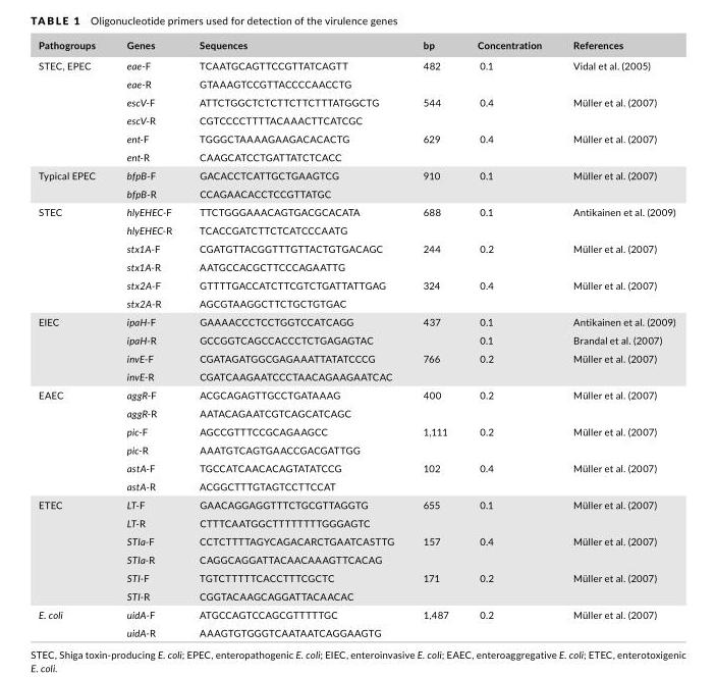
<table><thead><tr><td>Pathogroups</td><td>Genes</td><td>Sequences</td><td>bp</td><td>Concentration</td><td>References</td></tr></thead><tbody><tr><td rowspan="6">STEC, EPEC</td><td>eae-F</td><td>TCAATGCAGTTCCGTTATCAGTT</td><td rowspan="2">482</td><td rowspan="2">0.1</td><td rowspan="2">Vidal et al. (2005)</td></tr><tr><td>eae-R</td><td>GTAAAGTCCGTTACCCCAACCTG</td></tr><tr><td>escV-F</td><td>ATTCTGGCTCTCTTCTTCTTTATGGCTG</td><td rowspan="2">544</td><td rowspan="2">0.4</td><td rowspan="2">Müller et al. (2007)</td></tr><tr><td>escV-R</td><td>CGTCCCCTTTTACAAACTTCATCGC</td></tr><tr><td>ent-F</td><td>TGGGCTAAAAGAAGACACACTG</td><td rowspan="2">629</td><td rowspan="2">0.4</td><td rowspan="2">Müller et al. (2007)</td></tr><tr><td>ent-R</td><td>CAAGCATCCTGATTATCTCACC</td></tr><tr><td rowspan="2">Typical EPEC</td><td>bfpB-F</td><td>GACACCTCATTGCTGAAGTCG</td><td rowspan="2">910</td><td rowspan="2">0.1</td><td rowspan="2">Müller et al. (2007)</td></tr><tr><td>bfpB-R</td><td>CCAGAACACCTCCGTTATGC</td></tr><tr><td rowspan="6">STEC</td><td>hlyEHEC-F</td><td>TTCTGGGAAACAGTGACGCACATA</td><td rowspan="2">688</td><td rowspan="2">0.1</td><td rowspan="2">Antikainen et al. (2009)</td></tr><tr><td>hlyEHEC-R</td><td>TCACCGATCTTCTCATCCCAATG</td></tr><tr><td>stx1A-F</td><td>CGATGTTACGGTTTGTTACTGTGACAGC</td><td rowspan="2">244</td><td rowspan="2">0.2</td><td rowspan="2">Müller et al. (2007)</td></tr><tr><td>stx1A-R</td><td>AATGCCACGCTTCCCAGAATTG</td></tr><tr><td>stx2A-F</td><td>GTTTTGACCATCTTCGTCTGATTATTGAG</td><td rowspan="2">324</td><td rowspan="2">0.4</td><td rowspan="2">Müller et al. (2007)</td></tr><tr><td>stx2A-R</td><td>AGCGTAAGGCTTCTGCTGTGAC</td></tr><tr><td rowspan="4">EIEC</td><td>ipaH-F</td><td>GAAAACCCTCCTGGTCCATCAGG</td><td rowspan="2">437</td><td>0.1</td><td>Antikainen et al. (2009)</td></tr><tr><td>ipaH-R</td><td>GCCGGTCAGCCACCCTCTGAGAGTAC</td><td>0.1</td><td>Brandal et al. (2007)</td></tr><tr><td>invE-F</td><td>CGATAGATGGCGAGAAATTATATCCCG</td><td rowspan="2">766</td><td rowspan="2">0.2</td><td rowspan="2">Müller et al. (2007)</td></tr><tr><td>invE-R</td><td>CGATCAAGAATCCCTAACAGAAGAATCAC</td></tr><tr><td rowspan="6">EAEC</td><td>aggR-F</td><td>ACGCAGAGTTGCCTGATAAAG</td><td rowspan="2">400</td><td rowspan="2">0.2</td><td rowspan="2">Müller et al. (2007)</td></tr><tr><td>aggR-R</td><td>AATACAGAATCGTCAGCATCAGC</td></tr><tr><td>pic-F</td><td>AGCCGTTTCCGCAGAAGCC</td><td rowspan="2">1,111</td><td rowspan="2">0.2</td><td rowspan="2">Müller et al. (2007)</td></tr><tr><td>pic-R</td><td>AAATGTCAGTGAACCGACGATTGG</td></tr><tr><td>astA-F</td><td>TGCCATCAACACAGTATATCCG</td><td rowspan="2">102</td><td rowspan="2">0.4</td><td rowspan="2">Müller et al. (2007)</td></tr><tr><td>astA-R</td><td>ACGGCTTTGTAGTCCTTCCAT</td></tr><tr><td rowspan="6">ETEC</td><td>LT-F</td><td>GAACAGGAGGTTTCTGCGTTAGGTG</td><td rowspan="2">655</td><td rowspan="2">0.1</td><td rowspan="2">Müller et al. (2007)</td></tr><tr><td>LT-R</td><td>CTTTCAATGGCTTTTTTTTGGGAGTC</td></tr><tr><td>STIa-F</td><td>CCTCTTTTAGYCAGACARCTGAATCASTTG</td><td rowspan="2">157</td><td rowspan="2">0.4</td><td rowspan="2">Müller et al. (2007)</td></tr><tr><td>STIa-R</td><td>CAGGCAGGATTACAACAAAGTTCACAG</td></tr><tr><td>STI-F</td><td>TGTCTTTTTCACCTTTCGCTC</td><td rowspan="2">171</td><td rowspan="2">0.2</td><td rowspan="2">Müller et al. (2007)</td></tr><tr><td>STI-R</td><td>CGGTACAAGCAGGATTACAACAC</td></tr><tr><td rowspan="2">E. coli</td><td>uidA-F</td><td>ATGCCAGTCCAGCGTTTTTGC</td><td rowspan="2">1,487</td><td rowspan="2">0.2</td><td rowspan="2">Müller et al. (2007)</td></tr><tr><td>uidA-R</td><td>AAAGTGTGGGTCAATAATCAGGAAGTG</td></tr></tbody></table>